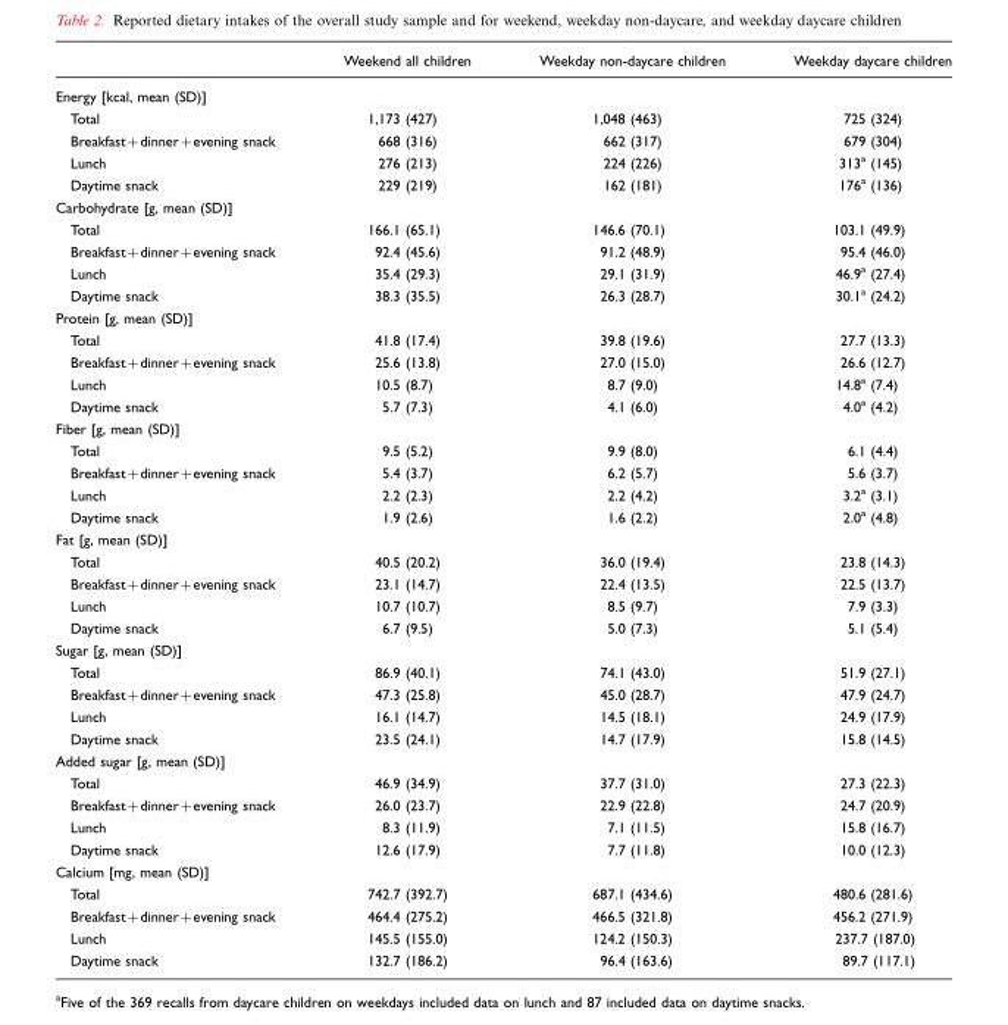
<table><thead><tr><td></td><td>Weekend all children</td><td>Weekday non-daycare children</td><td>Weekday daycare children</td></tr></thead><tbody><tr><td colspan="4">Energy [kcal, mean (SD)]</td></tr><tr><td>Total</td><td>1,173 (427)</td><td>1,048 (463)</td><td>725 (324)</td></tr><tr><td>Breakfast+dinner+evening snack</td><td>668 (316)</td><td>662 (317)</td><td>679 (304)</td></tr><tr><td>Lunch</td><td>276 (213)</td><td>224 (226)</td><td>313<sup>a</sup> (145)</td></tr><tr><td>Daytime snack</td><td>229 (219)</td><td>162 (181)</td><td>176<sup>a</sup> (136)</td></tr><tr><td colspan="4">Carbohydrate [g, mean (SD)]</td></tr><tr><td>Total</td><td>166.1 (65.1)</td><td>146.6 (70.1)</td><td>103.1 (49.9)</td></tr><tr><td>Breakfast+dinner+evening snack</td><td>92.4 (45.6)</td><td>91.2 (48.9)</td><td>95.4 (46.0)</td></tr><tr><td>Lunch</td><td>35.4 (29.3)</td><td>29.1 (31.9)</td><td>46.9<sup>a</sup> (27.4)</td></tr><tr><td>Daytime snack</td><td>38.3 (35.5)</td><td>26.3 (28.7)</td><td>30.1<sup>a</sup> (24.2)</td></tr><tr><td colspan="4">Protein [g, mean (SD)]</td></tr><tr><td>Total</td><td>41.8 (17.4)</td><td>39.8 (19.6)</td><td>27.7 (13.3)</td></tr><tr><td>Breakfast+dinner+evening snack</td><td>25.6 (13.8)</td><td>27.0 (15.0)</td><td>26.6 (12.7)</td></tr><tr><td>Lunch</td><td>10.5 (8.7)</td><td>8.7 (9.0)</td><td>14.8<sup>a</sup> (7.4)</td></tr><tr><td>Daytime snack</td><td>5.7 (7.3)</td><td>4.1 (6.0)</td><td>4.0<sup>a</sup> (4.2)</td></tr><tr><td colspan="4">Fiber [g, mean (SD)]</td></tr><tr><td>Total</td><td>9.5 (5.2)</td><td>9.9 (8.0)</td><td>6.1 (4.4)</td></tr><tr><td>Breakfast+dinner+evening snack</td><td>5.4 (3.7)</td><td>6.2 (5.7)</td><td>5.6 (3.7)</td></tr><tr><td>Lunch</td><td>2.2 (2.3)</td><td>2.2 (4.2)</td><td>3.2<sup>a</sup> (3.1)</td></tr><tr><td>Daytime snack</td><td>1.9 (2.6)</td><td>1.6 (2.2)</td><td>2.0<sup>a</sup> (4.8)</td></tr><tr><td colspan="4">Fat [g, mean (SD)]</td></tr><tr><td>Total</td><td>40.5 (20.2)</td><td>36.0 (19.4)</td><td>23.8 (14.3)</td></tr><tr><td>Breakfast+dinner+evening snack</td><td>23.1 (14.7)</td><td>22.4 (13.5)</td><td>22.5 (13.7)</td></tr><tr><td>Lunch</td><td>10.7 (10.7)</td><td>8.5 (9.7)</td><td>7.9 (3.3)</td></tr><tr><td>Daytime snack</td><td>6.7 (9.5)</td><td>5.0 (7.3)</td><td>5.1 (5.4)</td></tr><tr><td colspan="4">Sugar [g, mean (SD)]</td></tr><tr><td>Total</td><td>86.9 (40.1)</td><td>74.1 (43.0)</td><td>51.9 (27.1)</td></tr><tr><td>Breakfast+dinner+evening snack</td><td>47.3 (25.8)</td><td>45.0 (28.7)</td><td>47.9 (24.7)</td></tr><tr><td>Lunch</td><td>16.1 (14.7)</td><td>14.5 (18.1)</td><td>24.9 (17.9)</td></tr><tr><td>Daytime snack</td><td>23.5 (24.1)</td><td>14.7 (17.9)</td><td>15.8 (14.5)</td></tr><tr><td colspan="4">Added sugar [g, mean (SD)]</td></tr><tr><td>Total</td><td>46.9 (34.9)</td><td>37.7 (31.0)</td><td>27.3 (22.3)</td></tr><tr><td>Breakfast+dinner+evening snack</td><td>26.0 (23.7)</td><td>22.9 (22.8)</td><td>24.7 (20.9)</td></tr><tr><td>Lunch</td><td>8.3 (11.9)</td><td>7.1 (11.5)</td><td>15.8 (16.7)</td></tr><tr><td>Daytime snack</td><td>12.6 (17.9)</td><td>7.7 (11.8)</td><td>10.0 (12.3)</td></tr><tr><td colspan="4">Calcium [mg, mean (SD)]</td></tr><tr><td>Total</td><td>742.7 (392.7)</td><td>687.1 (434.6)</td><td>480.6 (281.6)</td></tr><tr><td>Breakfast+dinner+evening snack</td><td>464.4 (275.2)</td><td>466.5 (321.8)</td><td>456.2 (271.9)</td></tr><tr><td>Lunch</td><td>145.5 (155.0)</td><td>124.2 (150.3)</td><td>237.7 (187.0)</td></tr><tr><td>Daytime snack</td><td>132.7 (186.2)</td><td>96.4 (163.6)</td><td>89.7 (117.1)</td></tr></tbody></table>